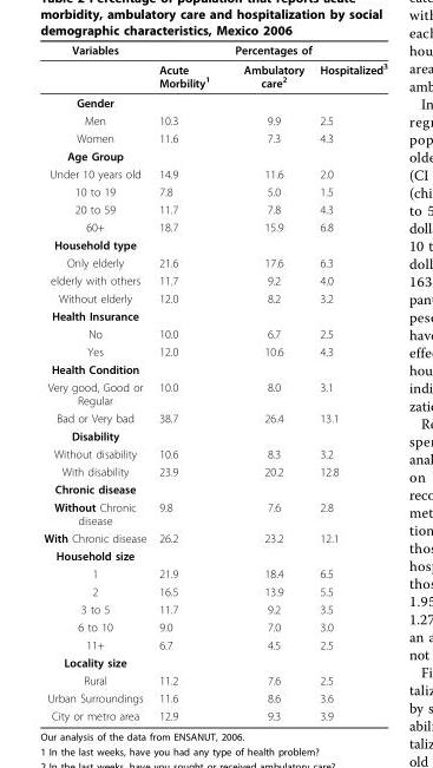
<table><thead><tr><td rowspan="2">Variables</td><td colspan="3">Percentages of</td></tr><tr><td>Acute Morbility<sup>1</sup></td><td>Ambulatory care<sup>2</sup></td><td>Hospitalized<sup>3</sup></td></tr></thead><tbody><tr><td colspan="4">Gender</td></tr><tr><td>Men</td><td>10.3</td><td>9.9</td><td>2.5</td></tr><tr><td>Women</td><td>11.6</td><td>7.3</td><td>4.3</td></tr><tr><td colspan="4">Age Group</td></tr><tr><td>Under 10 years old</td><td>14.9</td><td>11.6</td><td>2.0</td></tr><tr><td>10 to 19</td><td>7.8</td><td>5.0</td><td>1.5</td></tr><tr><td>20 to 59</td><td>11.7</td><td>7.8</td><td>4.3</td></tr><tr><td>60+</td><td>18.7</td><td>15.9</td><td>6.8</td></tr><tr><td colspan="4">Household type</td></tr><tr><td>Only elderly</td><td>21.6</td><td>17.6</td><td>6.3</td></tr><tr><td>elderly with others</td><td>11.7</td><td>9.2</td><td>4.0</td></tr><tr><td>Without elderly</td><td>12.0</td><td>8.2</td><td>3.2</td></tr><tr><td colspan="4">Health Insurance</td></tr><tr><td>No</td><td>10.0</td><td>6.7</td><td>2.5</td></tr><tr><td>Yes</td><td>12.0</td><td>10.6</td><td>4.3</td></tr><tr><td colspan="4">Health Condition</td></tr><tr><td>Very good, Good or Regular</td><td>10.0</td><td>8.0</td><td>3.1</td></tr><tr><td>Bad or Very bad</td><td>38.7</td><td>26.4</td><td>13.1</td></tr><tr><td colspan="4">Disability</td></tr><tr><td>Without disability</td><td>10.6</td><td>8.3</td><td>3.2</td></tr><tr><td>With disability</td><td>23.9</td><td>20.2</td><td>12.8</td></tr><tr><td colspan="4">Chronic disease</td></tr><tr><td>Without Chronic disease</td><td>9.8</td><td>7.6</td><td>2.8</td></tr><tr><td>With Chronic disease</td><td>26.2</td><td>23.2</td><td>12.1</td></tr><tr><td colspan="4">Household size</td></tr><tr><td>1</td><td>21.9</td><td>18.4</td><td>6.5</td></tr><tr><td>2</td><td>16.5</td><td>13.9</td><td>5.5</td></tr><tr><td>3 to 5</td><td>11.7</td><td>9.2</td><td>3.5</td></tr><tr><td>6 to 10</td><td>9.0</td><td>7.0</td><td>3.0</td></tr><tr><td>11+</td><td>6.7</td><td>4.5</td><td>2.5</td></tr><tr><td colspan="4">Locality size</td></tr><tr><td>Rural</td><td>11.2</td><td>7.6</td><td>2.5</td></tr><tr><td>Urban Surroundings</td><td>11.6</td><td>8.6</td><td>3.6</td></tr><tr><td>City or metro area</td><td>12.9</td><td>9.3</td><td>3.9</td></tr></tbody></table>